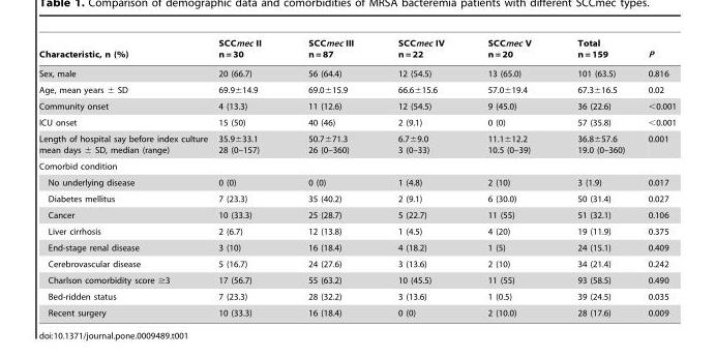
<table><thead><tr><td>Characteristic, n (%)</td><td>SCCmec II n = 30</td><td>SCCmec III n = 87</td><td>SCCmec IV n = 22</td><td>SCCmec V n = 20</td><td>Total n = 159</td><td>P</td></tr></thead><tbody><tr><td>Sex, male</td><td>20 (66.7)</td><td>56 (64.4)</td><td>12 (54.5)</td><td>13 (65.0)</td><td>101 (63.5)</td><td>0.816</td></tr><tr><td>Age, mean years ± SD</td><td>69.9±14.9</td><td>69.0±15.9</td><td>66.6±15.6</td><td>57.0±19.4</td><td>67.3±16.5</td><td>0.02</td></tr><tr><td>Community onset</td><td>4 (13.3)</td><td>11 (12.6)</td><td>12 (54.5)</td><td>9 (45.0)</td><td>36 (22.6)</td><td>&lt;0.001</td></tr><tr><td>ICU onset</td><td>15 (50)</td><td>40 (46)</td><td>2 (9.1)</td><td>0 (0)</td><td>57 (35.8)</td><td>&lt;0.001</td></tr><tr><td>Length of hospital say before index culture mean days ± SD, median (range)</td><td>35.9±33.1 28 (0–157)</td><td>50.7±71.3 26 (0–360)</td><td>6.7±9.0 3 (0–33)</td><td>11.1±12.2 10.5 (0–39)</td><td>36.8±57.6 19.0 (0–360)</td><td>0.001</td></tr><tr><td colspan="7">Comorbid condition</td></tr><tr><td>No underlying disease</td><td>0 (0)</td><td>0 (0)</td><td>1 (4.8)</td><td>2 (10)</td><td>3 (1.9)</td><td>0.017</td></tr><tr><td>Diabetes mellitus</td><td>7 (23.3)</td><td>35 (40.2)</td><td>2 (9.1)</td><td>6 (30.0)</td><td>50 (31.4)</td><td>0.027</td></tr><tr><td>Cancer</td><td>10 (33.3)</td><td>25 (28.7)</td><td>5 (22.7)</td><td>11 (55)</td><td>51 (32.1)</td><td>0.106</td></tr><tr><td>Liver cirrhosis</td><td>2 (6.7)</td><td>12 (13.8)</td><td>1 (4.5)</td><td>4 (20)</td><td>19 (11.9)</td><td>0.375</td></tr><tr><td>End-stage renal disease</td><td>3 (10)</td><td>16 (18.4)</td><td>4 (18.2)</td><td>1 (5)</td><td>24 (15.1)</td><td>0.409</td></tr><tr><td>Cerebrovascular disease</td><td>5 (16.7)</td><td>24 (27.6)</td><td>3 (13.6)</td><td>2 (10)</td><td>34 (21.4)</td><td>0.242</td></tr><tr><td>Charlson comorbidity score ≥3</td><td>17 (56.7)</td><td>55 (63.2)</td><td>10 (45.5)</td><td>11 (55)</td><td>93 (58.5)</td><td>0.490</td></tr><tr><td>Bed-ridden status</td><td>7 (23.3)</td><td>28 (32.2)</td><td>3 (13.6)</td><td>1 (0.5)</td><td>39 (24.5)</td><td>0.035</td></tr><tr><td>Recent surgery</td><td>10 (33.3)</td><td>16 (18.4)</td><td>0 (0)</td><td>2 (10.0)</td><td>28 (17.6)</td><td>0.009</td></tr></tbody></table>